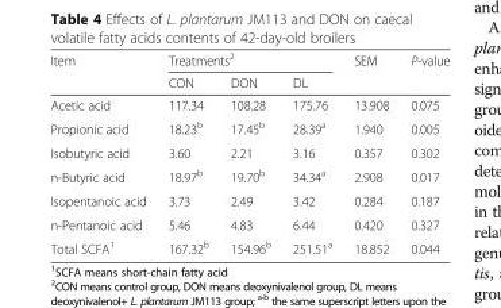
<table><thead><tr><td rowspan="2">Item</td><td colspan="3">Treatments<sup>2</sup></td><td rowspan="2">SEM</td><td rowspan="2">P-value</td></tr><tr><td>CON</td><td>DON</td><td>DL</td></tr></thead><tbody><tr><td>Acetic acid</td><td>117.34</td><td>108.28</td><td>175.76</td><td>13.908</td><td>0.075</td></tr><tr><td>Propionic acid</td><td>18.23<sup>b</sup></td><td>17.45<sup>b</sup></td><td>28.39<sup>a</sup></td><td>1.940</td><td>0.005</td></tr><tr><td>Isobutyric acid</td><td>3.60</td><td>2.21</td><td>3.16</td><td>0.357</td><td>0.302</td></tr><tr><td>n-Butyric acid</td><td>18.97<sup>b</sup></td><td>19.70<sup>b</sup></td><td>34.34<sup>a</sup></td><td>2.908</td><td>0.017</td></tr><tr><td>Isopentanoic acid</td><td>3.73</td><td>2.49</td><td>3.42</td><td>0.284</td><td>0.187</td></tr><tr><td>n-Pentanoic acid</td><td>5.46</td><td>4.83</td><td>6.44</td><td>0.420</td><td>0.327</td></tr><tr><td>Total SCFA<sup>1</sup></td><td>167.32<sup>b</sup></td><td>154.96<sup>b</sup></td><td>251.51<sup>a</sup></td><td>18.852</td><td>0.044</td></tr></tbody></table>